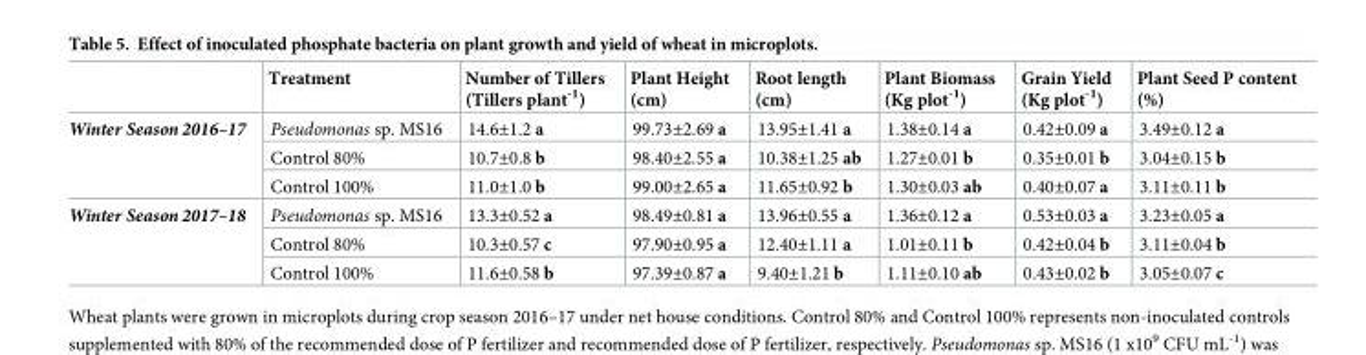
<table><thead><tr><td></td><td>Treatment</td><td>Number of Tillers (Tillers plant<sup>-1</sup>)</td><td>Plant Height (cm)</td><td>Root length (cm)</td><td>Plant Biomass (Kg plot<sup>-1</sup>)</td><td>Grain Yield (Kg plot<sup>-1</sup>)</td><td>Plant Seed P content (%)</td></tr></thead><tbody><tr><td rowspan="3">Winter Season 2016–17</td><td>Pseudomonas sp. MS16</td><td>14.6±1.2 a</td><td>99.73±2.69 a</td><td>13.95±1.41 a</td><td>1.38±0.14 a</td><td>0.42±0.09 a</td><td>3.49±0.12 a</td></tr><tr><td>Control 80%</td><td>10.7±0.8 b</td><td>98.40±2.55 a</td><td>10.38±1.25 ab</td><td>1.27±0.01 b</td><td>0.35±0.01 b</td><td>3.04±0.15 b</td></tr><tr><td>Control 100%</td><td>11.0±1.0 b</td><td>99.00±2.65 a</td><td>11.65±0.92 b</td><td>1.30±0.03 ab</td><td>0.40±0.07 a</td><td>3.11±0.11 b</td></tr><tr><td rowspan="3">Winter Season 2017–18</td><td>Pseudomonas sp. MS16</td><td>13.3±0.52 a</td><td>98.49±0.81 a</td><td>13.96±0.55 a</td><td>1.36±0.12 a</td><td>0.53±0.03 a</td><td>3.23±0.05 a</td></tr><tr><td>Control 80%</td><td>10.3±0.57 c</td><td>97.90±0.95 a</td><td>12.40±1.11 a</td><td>1.01±0.11 b</td><td>0.42±0.04 b</td><td>3.11±0.04 b</td></tr><tr><td>Control 100%</td><td>11.6±0.58 b</td><td>97.39±0.87 a</td><td>9.40±1.21 b</td><td>1.11±0.10 ab</td><td>0.43±0.02 b</td><td>3.05±0.07 c</td></tr></tbody></table>